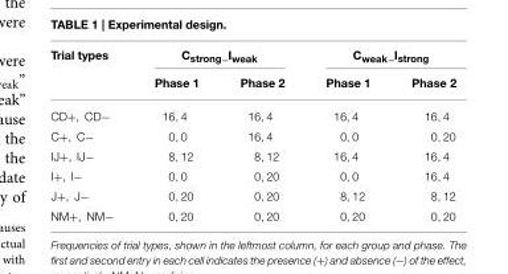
<table><thead><tr><td rowspan="2">Trial types</td><td colspan="2">Cstrong_Iweak</td><td colspan="2">Cweak_Istrong</td></tr><tr><td>Phase 1</td><td>Phase 2</td><td>Phase 1</td><td>Phase 2</td></tr></thead><tbody><tr><td>CD+, CD−</td><td>16, 4</td><td>16, 4</td><td>16, 4</td><td>16, 4</td></tr><tr><td>C+, C−</td><td>0, 0</td><td>16, 4</td><td>0, 0</td><td>0, 20</td></tr><tr><td>IJ+, IJ−</td><td>8, 12</td><td>8, 12</td><td>16, 4</td><td>16, 4</td></tr><tr><td>I+, I−</td><td>0, 0</td><td>0, 20</td><td>0, 0</td><td>16, 4</td></tr><tr><td>J+, J−</td><td>0, 20</td><td>0, 20</td><td>8, 12</td><td>8, 12</td></tr><tr><td>NM+, NM−</td><td>0, 20</td><td>0, 20</td><td>0, 20</td><td>0, 20</td></tr></tbody></table>